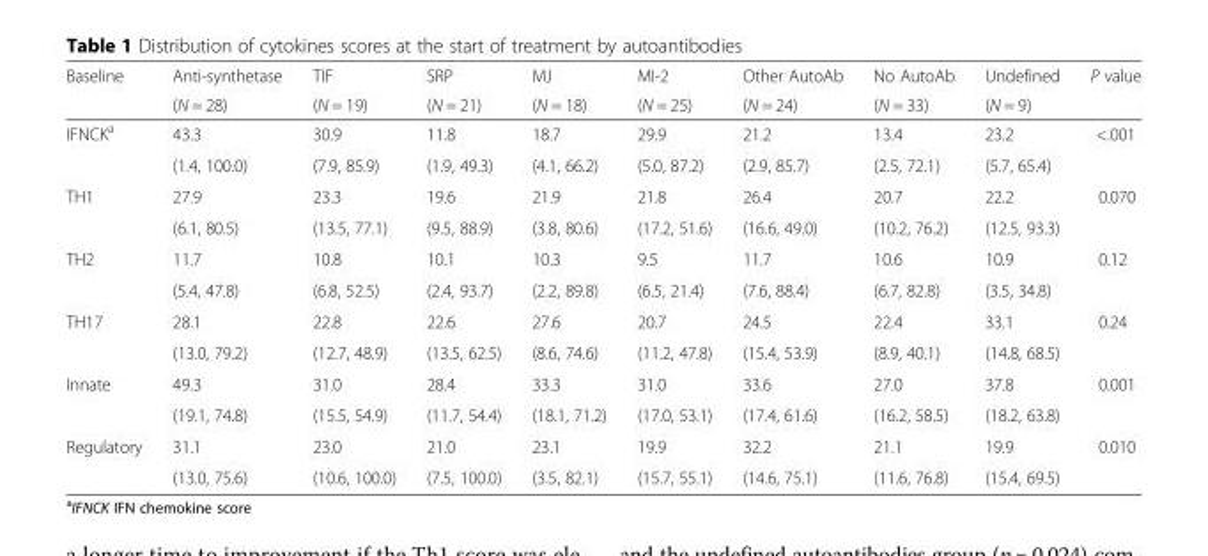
<table><thead><tr><td rowspan="2">Baseline</td><td rowspan="2">Anti-synthetase (N = 28)</td><td rowspan="2">TIF (N = 19)</td><td rowspan="2">SRP (N = 21)</td><td rowspan="2">MJ (N = 18)</td><td rowspan="2">MI-2 (N = 25)</td><td rowspan="2">Other AutoAb (N = 24)</td><td rowspan="2">No AutoAb (N = 33)</td><td rowspan="2">Undefined (N = 9)</td><td rowspan="2">P value</td></tr><tr></tr></thead><tbody><tr><td rowspan="2">IFNCK<sup>a</sup></td><td>43.3</td><td>30.9</td><td>11.8</td><td>18.7</td><td>29.9</td><td>21.2</td><td>13.4</td><td>23.2</td><td rowspan="2">&lt;.001</td></tr><tr><td>(1.4, 100.0)</td><td>(7.9, 85.9)</td><td>(1.9, 49.3)</td><td>(4.1, 66.2)</td><td>(5.0, 87.2)</td><td>(2.9, 85.7)</td><td>(2.5, 72.1)</td><td>(5.7, 65.4)</td></tr><tr><td rowspan="2">TH1</td><td>27.9</td><td>23.3</td><td>19.6</td><td>21.9</td><td>21.8</td><td>26.4</td><td>20.7</td><td>22.2</td><td>0.070</td></tr><tr><td>(6.1, 80.5)</td><td>(13.5, 77.1)</td><td>(9.5, 88.9)</td><td>(3.8, 80.6)</td><td>(17.2, 51.6)</td><td>(16.6, 49.0)</td><td>(10.2, 76.2)</td><td>(12.5, 93.3)</td><td></td></tr><tr><td rowspan="2">TH2</td><td>11.7</td><td>10.8</td><td>10.1</td><td>10.3</td><td>9.5</td><td>11.7</td><td>10.6</td><td>10.9</td><td rowspan="2">0.12</td></tr><tr><td>(5.4, 47.8)</td><td>(6.8, 52.5)</td><td>(2.4, 93.7)</td><td>(2.2, 89.8)</td><td>(6.5, 21.4)</td><td>(7.6, 88.4)</td><td>(6.7, 82.8)</td><td>(3.5, 34.8)</td></tr><tr><td rowspan="2">TH17</td><td>28.1</td><td>22.8</td><td>22.6</td><td>27.6</td><td>20.7</td><td>24.5</td><td>22.4</td><td>33.1</td><td rowspan="2">0.24</td></tr><tr><td>(13.0, 79.2)</td><td>(12.7, 48.9)</td><td>(13.5, 62.5)</td><td>(8.6, 74.6)</td><td>(11.2, 47.8)</td><td>(15.4, 53.9)</td><td>(8.9, 40.1)</td><td>(14.8, 68.5)</td></tr><tr><td rowspan="2">Innate</td><td>49.3</td><td>31.0</td><td>28.4</td><td>33.3</td><td>31.0</td><td>33.6</td><td>27.0</td><td>37.8</td><td rowspan="2">0.001</td></tr><tr><td>(19.1, 74.8)</td><td>(15.5, 54.9)</td><td>(11.7, 54.4)</td><td>(18.1, 71.2)</td><td>(17.0, 53.1)</td><td>(17.4, 61.6)</td><td>(16.2, 58.5)</td><td>(18.2, 63.8)</td></tr><tr><td rowspan="2">Regulatory</td><td>31.1</td><td>23.0</td><td>21.0</td><td>23.1</td><td>19.9</td><td>32.2</td><td>21.1</td><td>19.9</td><td rowspan="2">0.010</td></tr><tr><td>(13.0, 75.6)</td><td>(10.6, 100.0)</td><td>(7.5, 100.0)</td><td>(3.5, 82.1)</td><td>(15.7, 55.1)</td><td>(14.6, 75.1)</td><td>(11.6, 76.8)</td><td>(15.4, 69.5)</td></tr></tbody></table>